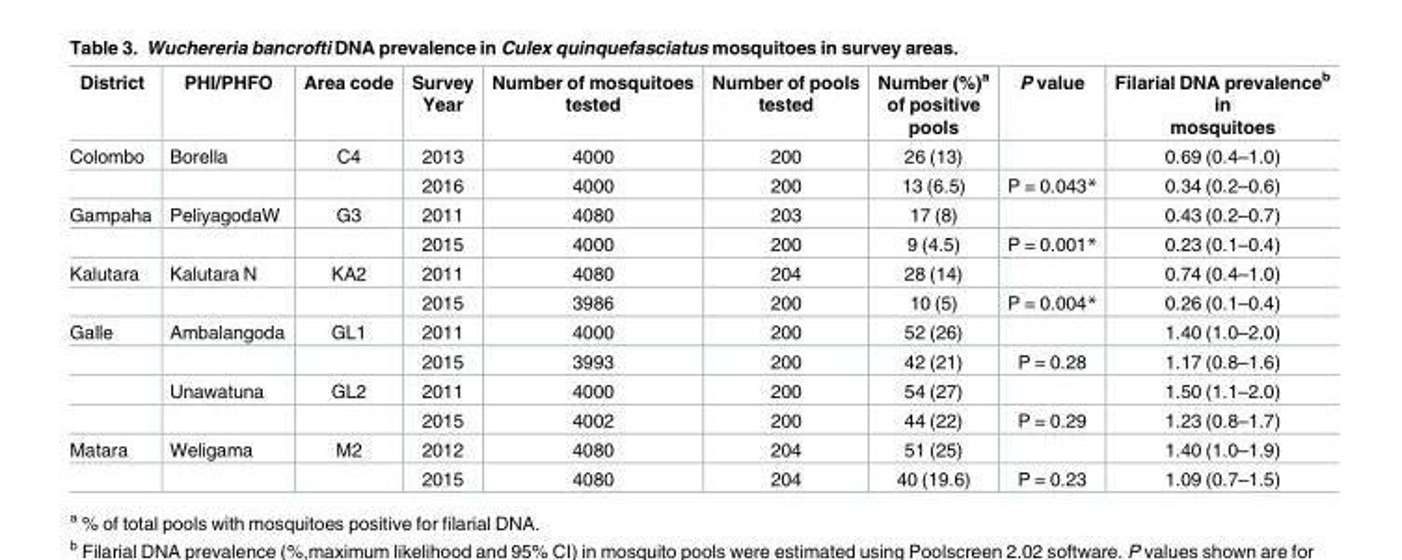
<table><thead><tr><td>District</td><td>PHI/PHFO</td><td>Area code</td><td>Survey Year</td><td>Number of mosquitoes tested</td><td>Number of pools tested</td><td>Number (%)<sup>a</sup> of positive pools</td><td>P value</td><td>Filarial DNA prevalence<sup>b</sup> in mosquitoes</td></tr></thead><tbody><tr><td rowspan="2">Colombo</td><td>Borella</td><td>C4</td><td>2013</td><td>4000</td><td>200</td><td>26 (13)</td><td></td><td>0.69 (0.4–1.0)</td></tr><tr><td></td><td></td><td>2016</td><td>4000</td><td>200</td><td>13 (6.5)</td><td>P = 0.043*</td><td>0.34 (0.2–0.6)</td></tr><tr><td rowspan="2">Gampaha</td><td>PeliyagodaW</td><td>G3</td><td>2011</td><td>4080</td><td>203</td><td>17 (8)</td><td></td><td>0.43 (0.2–0.7)</td></tr><tr><td></td><td></td><td>2015</td><td>4000</td><td>200</td><td>9 (4.5)</td><td>P = 0.001*</td><td>0.23 (0.1–0.4)</td></tr><tr><td rowspan="2">Kalutara</td><td>Kalutara N</td><td>KA2</td><td>2011</td><td>4080</td><td>204</td><td>28 (14)</td><td></td><td>0.74 (0.4–1.0)</td></tr><tr><td></td><td></td><td>2015</td><td>3986</td><td>200</td><td>10 (5)</td><td>P = 0.004*</td><td>0.26 (0.1–0.4)</td></tr><tr><td rowspan="4">Galle</td><td>Ambalangoda</td><td>GL1</td><td>2011</td><td>4000</td><td>200</td><td>52 (26)</td><td></td><td>1.40 (1.0–2.0)</td></tr><tr><td></td><td></td><td>2015</td><td>3993</td><td>200</td><td>42 (21)</td><td>P = 0.28</td><td>1.17 (0.8–1.6)</td></tr><tr><td>Unawatuna</td><td>GL2</td><td>2011</td><td>4000</td><td>200</td><td>54 (27)</td><td></td><td>1.50 (1.1–2.0)</td></tr><tr><td></td><td></td><td>2015</td><td>4002</td><td>200</td><td>44 (22)</td><td>P = 0.29</td><td>1.23 (0.8–1.7)</td></tr><tr><td rowspan="2">Matara</td><td>Weligama</td><td>M2</td><td>2012</td><td>4080</td><td>204</td><td>51 (25)</td><td></td><td>1.40 (1.0–1.9)</td></tr><tr><td></td><td></td><td>2015</td><td>4080</td><td>204</td><td>40 (19.6)</td><td>P = 0.23</td><td>1.09 (0.7–1.5)</td></tr></tbody></table>